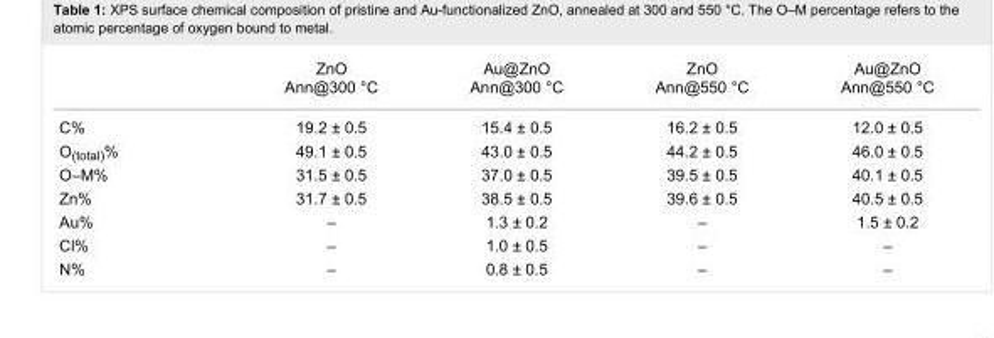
<table><thead><tr><td></td><td>ZnO Ann@300 °C</td><td>Au@ZnO Ann@300 °C</td><td>ZnO Ann@550 °C</td><td>Au@ZnO Ann@550 °C</td></tr></thead><tbody><tr><td>C%</td><td>19.2 ± 0.5</td><td>15.4 ± 0.5</td><td>16.2 ± 0.5</td><td>12.0 ± 0.5</td></tr><tr><td>O<sub>(total)</sub>%</td><td>49.1 ± 0.5</td><td>43.0 ± 0.5</td><td>44.2 ± 0.5</td><td>46.0 ± 0.5</td></tr><tr><td>O–M%</td><td>31.5 ± 0.5</td><td>37.0 ± 0.5</td><td>39.5 ± 0.5</td><td>40.1 ± 0.5</td></tr><tr><td>Zn%</td><td>31.7 ± 0.5</td><td>38.5 ± 0.5</td><td>39.6 ± 0.5</td><td>40.5 ± 0.5</td></tr><tr><td>Au%</td><td>–</td><td>1.3 ± 0.2</td><td>–</td><td>1.5 ± 0.2</td></tr><tr><td>Cl%</td><td>–</td><td>1.0 ± 0.5</td><td>–</td><td>–</td></tr><tr><td>N%</td><td>–</td><td>0.8 ± 0.5</td><td>–</td><td>–</td></tr></tbody></table>